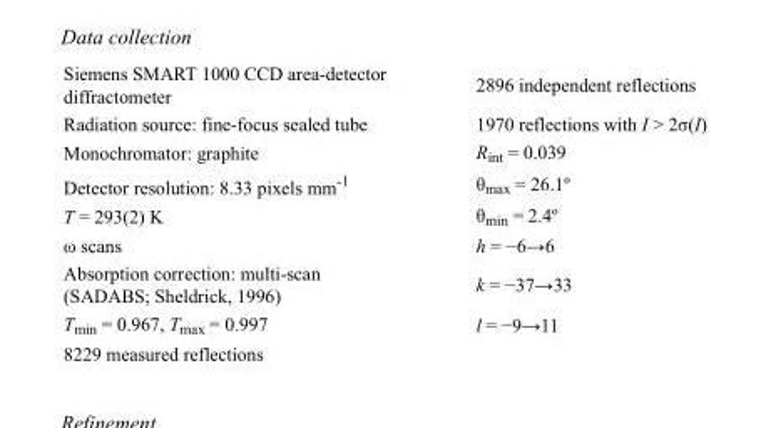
<table><tbody><tr><td>Siemens SMART 1000 CCD area-detector diffractometer</td><td>2896 independent reflections</td></tr><tr><td>Radiation source: fine-focus sealed tube</td><td>1970 reflections with I &gt; 2σ(I)</td></tr><tr><td>Monochromator: graphite</td><td>R<sub>int</sub> = 0.039</td></tr><tr><td>Detector resolution: 8.33 pixels mm<sup>-1</sup></td><td>θ<sub>max</sub> = 26.1º</td></tr><tr><td>T = 293(2) K</td><td>θ<sub>min</sub> = 2.4º</td></tr><tr><td>ω scans</td><td>h = −6→6</td></tr><tr><td>Absorption correction: multi-scan (SADABS; Sheldrick, 1996)</td><td>k = −37→33</td></tr><tr><td>T<sub>min</sub> = 0.967, T<sub>max</sub> = 0.997</td><td>l = −9→11</td></tr><tr><td>8229 measured reflections</td><td></td></tr></tbody></table>